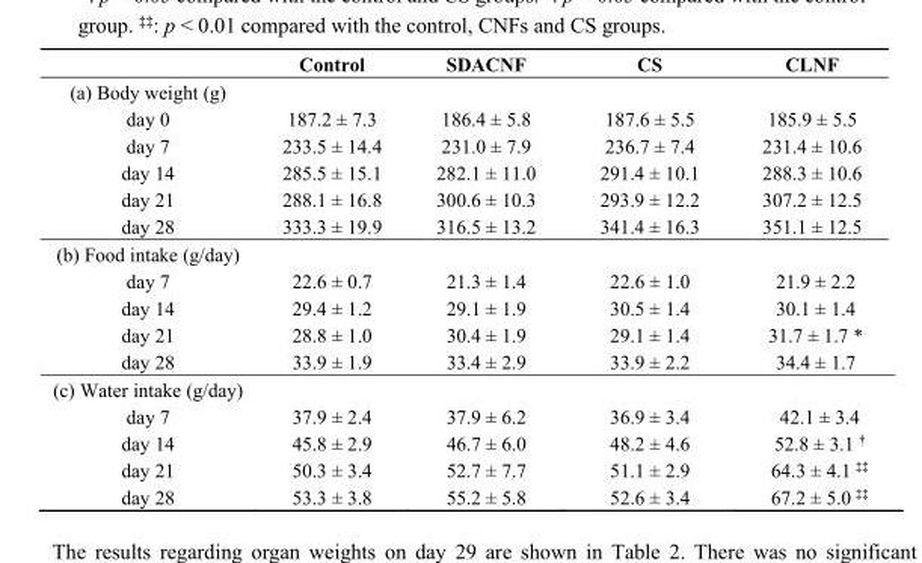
<table><thead><tr><td></td><td>Control</td><td>SDACNF</td><td>CS</td><td>CLNF</td></tr></thead><tbody><tr><td colspan="5">(a) Body weight (g)</td></tr><tr><td>day 0</td><td>187.2 ± 7.3</td><td>186.4 ± 5.8</td><td>187.6 ± 5.5</td><td>185.9 ± 5.5</td></tr><tr><td>day 7</td><td>233.5 ± 14.4</td><td>231.0 ± 7.9</td><td>236.7 ± 7.4</td><td>231.4 ± 10.6</td></tr><tr><td>day 14</td><td>285.5 ± 15.1</td><td>282.1 ± 11.0</td><td>291.4 ± 10.1</td><td>288.3 ± 10.6</td></tr><tr><td>day 21</td><td>288.1 ± 16.8</td><td>300.6 ± 10.3</td><td>293.9 ± 12.2</td><td>307.2 ± 12.5</td></tr><tr><td>day 28</td><td>333.3 ± 19.9</td><td>316.5 ± 13.2</td><td>341.4 ± 16.3</td><td>351.1 ± 12.5</td></tr><tr><td colspan="5">(b) Food intake (g/day)</td></tr><tr><td>day 7</td><td>22.6 ± 0.7</td><td>21.3 ± 1.4</td><td>22.6 ± 1.0</td><td>21.9 ± 2.2</td></tr><tr><td>day 14</td><td>29.4 ± 1.2</td><td>29.1 ± 1.9</td><td>30.5 ± 1.4</td><td>30.1 ± 1.4</td></tr><tr><td>day 21</td><td>28.8 ± 1.0</td><td>30.4 ± 1.9</td><td>29.1 ± 1.4</td><td>31.7 ± 1.7 *</td></tr><tr><td>day 28</td><td>33.9 ± 1.9</td><td>33.4 ± 2.9</td><td>33.9 ± 2.2</td><td>34.4 ± 1.7</td></tr><tr><td colspan="5">(c) Water intake (g/day)</td></tr><tr><td>day 7</td><td>37.9 ± 2.4</td><td>37.9 ± 6.2</td><td>36.9 ± 3.4</td><td>42.1 ± 3.4</td></tr><tr><td>day 14</td><td>45.8 ± 2.9</td><td>46.7 ± 6.0</td><td>48.2 ± 4.6</td><td>52.8 ± 3.1 <sup>†</sup></td></tr><tr><td>day 21</td><td>50.3 ± 3.4</td><td>52.7 ± 7.7</td><td>51.1 ± 2.9</td><td>64.3 ± 4.1 <sup>‡‡</sup></td></tr><tr><td>day 28</td><td>53.3 ± 3.8</td><td>55.2 ± 5.8</td><td>52.6 ± 3.4</td><td>67.2 ± 5.0 <sup>‡‡</sup></td></tr></tbody></table>